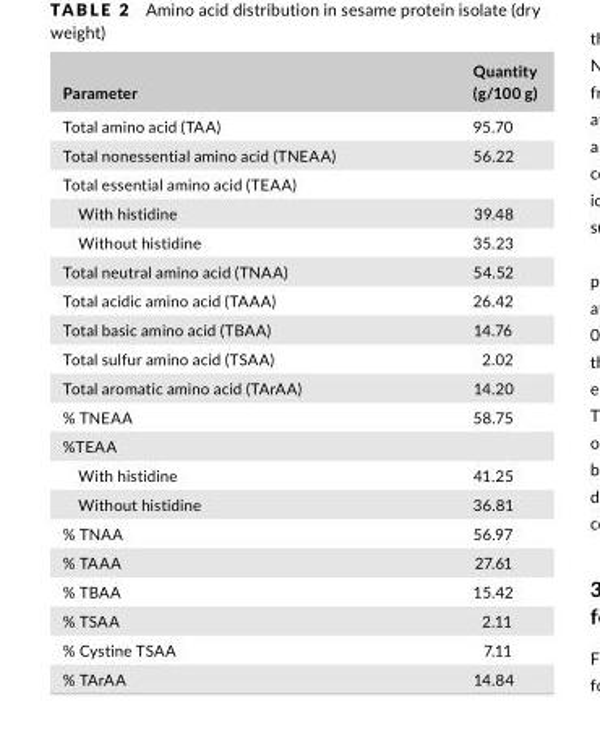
<table><thead><tr><td>Parameter</td><td>Quantity (g/100 g)</td></tr></thead><tbody><tr><td>Total amino acid (TAA)</td><td>95.70</td></tr><tr><td>Total nonessential amino acid (TNEAA)</td><td>56.22</td></tr><tr><td colspan="2">Total essential amino acid (TEAA)</td></tr><tr><td>With histidine</td><td>39.48</td></tr><tr><td>Without histidine</td><td>35.23</td></tr><tr><td>Total neutral amino acid (TNAA)</td><td>54.52</td></tr><tr><td>Total acidic amino acid (TAAA)</td><td>26.42</td></tr><tr><td>Total basic amino acid (TBAA)</td><td>14.76</td></tr><tr><td>Total sulfur amino acid (TSAA)</td><td>2.02</td></tr><tr><td>Total aromatic amino acid (TArAA)</td><td>14.20</td></tr><tr><td>% TNEAA</td><td>58.75</td></tr><tr><td colspan="2">%TEAA</td></tr><tr><td>With histidine</td><td>41.25</td></tr><tr><td>Without histidine</td><td>36.81</td></tr><tr><td>% TNAA</td><td>56.97</td></tr><tr><td>% TAAA</td><td>27.61</td></tr><tr><td>% TBAA</td><td>15.42</td></tr><tr><td>% TSAA</td><td>2.11</td></tr><tr><td>% Cystine TSAA</td><td>7.11</td></tr><tr><td>% TArAA</td><td>14.84</td></tr></tbody></table>